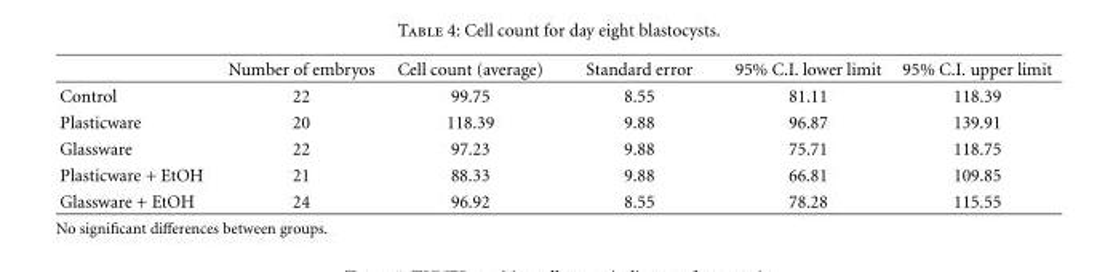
<table><thead><tr><td></td><td>Number of embryos</td><td>Cell count (average)</td><td>Standard error</td><td>95% C.I. lower limit</td><td>95% C.I. upper limit</td></tr></thead><tbody><tr><td>Control</td><td>22</td><td>99.75</td><td>8.55</td><td>81.11</td><td>118.39</td></tr><tr><td>Plasticware</td><td>20</td><td>118.39</td><td>9.88</td><td>96.87</td><td>139.91</td></tr><tr><td>Glassware</td><td>22</td><td>97.23</td><td>9.88</td><td>75.71</td><td>118.75</td></tr><tr><td>Plasticware + EtOH</td><td>21</td><td>88.33</td><td>9.88</td><td>66.81</td><td>109.85</td></tr><tr><td>Glassware + EtOH</td><td>24</td><td>96.92</td><td>8.55</td><td>78.28</td><td>115.55</td></tr></tbody></table>